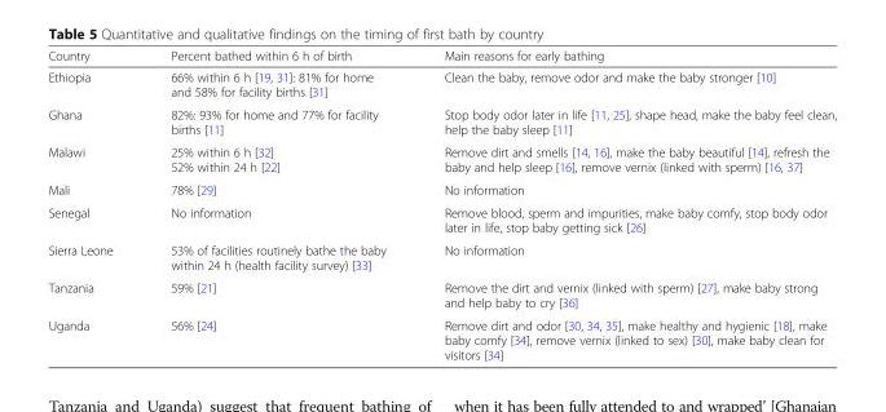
<table><thead><tr><td>Country</td><td>Percent bathed within 6 h of birth</td><td>Main reasons for early bathing</td></tr></thead><tbody><tr><td>Ethiopia</td><td>66% within 6 h [19, 31]: 81% for home and 58% for facility births [31]</td><td>Clean the baby, remove odor and make the baby stronger [10]</td></tr><tr><td>Ghana</td><td>82%: 93% for home and 77% for facility births [11]</td><td>Stop body odor later in life [11, 25], shape head, make the baby feel clean, help the baby sleep [11]</td></tr><tr><td>Malawi</td><td>25% within 6 h [32] 52% within 24 h [22]</td><td>Remove dirt and smells [14, 16], make the baby beautiful [14], refresh the baby and help sleep [16], remove vernix (linked with sperm) [16, 37]</td></tr><tr><td>Mali</td><td>78% [29]</td><td>No information</td></tr><tr><td>Senegal</td><td>No information</td><td>Remove blood, sperm and impurities, make baby comfy, stop body odor later in life, stop baby getting sick [26]</td></tr><tr><td>Sierra Leone</td><td>53% of facilities routinely bathe the baby within 24 h (health facility survey) [33]</td><td>No information</td></tr><tr><td>Tanzania</td><td>59% [21]</td><td>Remove the dirt and vernix (linked with sperm) [27], make baby strong and help baby to cry [36]</td></tr><tr><td>Uganda</td><td>56% [24]</td><td>Remove dirt and odor [30, 34, 35], make healthy and hygienic [18], make baby comfy [34], remove vernix (linked to sex) [30], make baby clean for visitors [34]</td></tr></tbody></table>